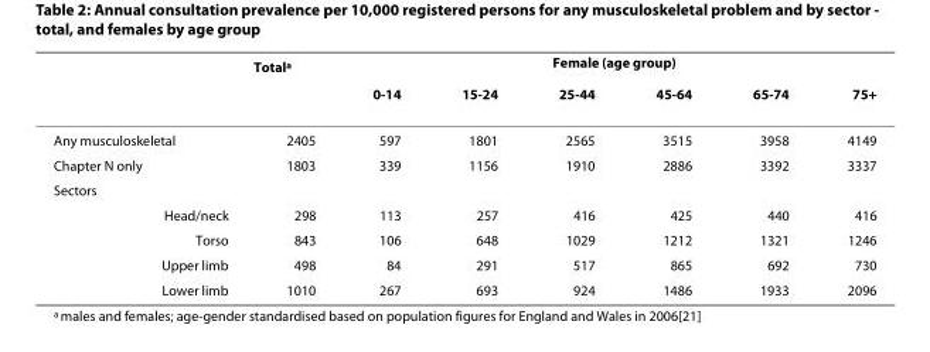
<table><thead><tr><td rowspan="2"></td><td rowspan="2">Total<sup>a</sup></td><td colspan="6">Female (age group)</td></tr><tr><td>0-14</td><td>15-24</td><td>25-44</td><td>45-64</td><td>65-74</td><td>75+</td></tr></thead><tbody><tr><td>Any musculoskeletal</td><td>2405</td><td>597</td><td>1801</td><td>2565</td><td>3515</td><td>3958</td><td>4149</td></tr><tr><td>Chapter N only</td><td>1803</td><td>339</td><td>1156</td><td>1910</td><td>2886</td><td>3392</td><td>3337</td></tr><tr><td colspan="8">Sectors</td></tr><tr><td>Head/neck</td><td>298</td><td>113</td><td>257</td><td>416</td><td>425</td><td>440</td><td>416</td></tr><tr><td>Torso</td><td>843</td><td>106</td><td>648</td><td>1029</td><td>1212</td><td>1321</td><td>1246</td></tr><tr><td>Upper limb</td><td>498</td><td>84</td><td>291</td><td>517</td><td>865</td><td>692</td><td>730</td></tr><tr><td>Lower limb</td><td>1010</td><td>267</td><td>693</td><td>924</td><td>1486</td><td>1933</td><td>2096</td></tr></tbody></table>